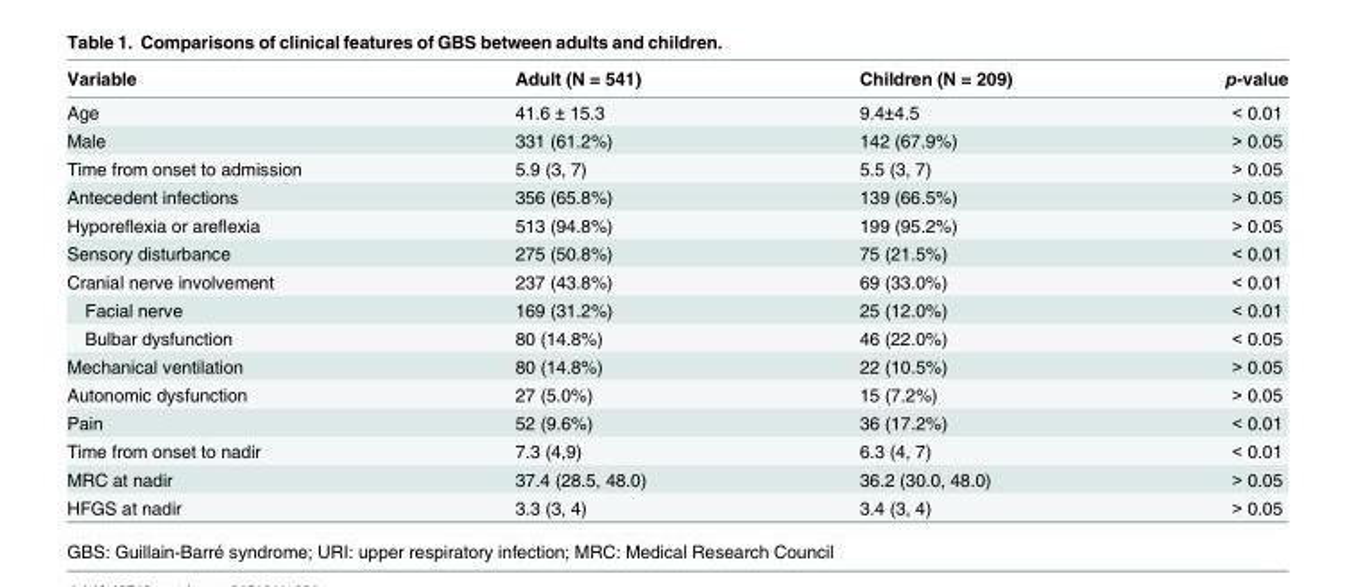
<table><thead><tr><td>Variable</td><td>Adult (N = 541)</td><td>Children (N = 209)</td><td>p-value</td></tr></thead><tbody><tr><td>Age</td><td>41.6 ± 15.3</td><td>9.4±4.5</td><td>&lt; 0.01</td></tr><tr><td>Male</td><td>331 (61.2%)</td><td>142 (67.9%)</td><td>&gt; 0.05</td></tr><tr><td>Time from onset to admission</td><td>5.9 (3, 7)</td><td>5.5 (3, 7)</td><td>&gt; 0.05</td></tr><tr><td>Antecedent infections</td><td>356 (65.8%)</td><td>139 (66.5%)</td><td>&gt; 0.05</td></tr><tr><td>Hyporeflexia or areflexia</td><td>513 (94.8%)</td><td>199 (95.2%)</td><td>&gt; 0.05</td></tr><tr><td>Sensory disturbance</td><td>275 (50.8%)</td><td>75 (21.5%)</td><td>&lt; 0.01</td></tr><tr><td>Cranial nerve involvement</td><td>237 (43.8%)</td><td>69 (33.0%)</td><td>&lt; 0.01</td></tr><tr><td>Facial nerve</td><td>169 (31.2%)</td><td>25 (12.0%)</td><td>&lt; 0.01</td></tr><tr><td>Bulbar dysfunction</td><td>80 (14.8%)</td><td>46 (22.0%)</td><td>&lt; 0.05</td></tr><tr><td>Mechanical ventilation</td><td>80 (14.8%)</td><td>22 (10.5%)</td><td>&gt; 0.05</td></tr><tr><td>Autonomic dysfunction</td><td>27 (5.0%)</td><td>15 (7.2%)</td><td>&gt; 0.05</td></tr><tr><td>Pain</td><td>52 (9.6%)</td><td>36 (17.2%)</td><td>&lt; 0.01</td></tr><tr><td>Time from onset to nadir</td><td>7.3 (4,9)</td><td>6.3 (4, 7)</td><td>&lt; 0.01</td></tr><tr><td>MRC at nadir</td><td>37.4 (28.5, 48.0)</td><td>36.2 (30.0, 48.0)</td><td>&gt; 0.05</td></tr><tr><td>HFGS at nadir</td><td>3.3 (3, 4)</td><td>3.4 (3, 4)</td><td>&gt; 0.05</td></tr></tbody></table>